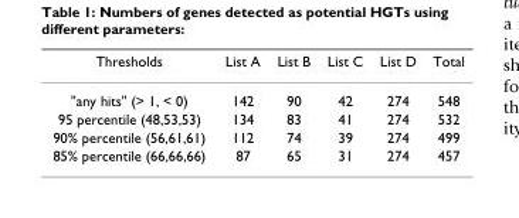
<table><thead><tr><td>Thresholds</td><td>List A</td><td>List B</td><td>List C</td><td>List D</td><td>Total</td></tr></thead><tbody><tr><td>&quot;any hits&quot; (&gt; 1, &lt; 0)</td><td>142</td><td>90</td><td>42</td><td>274</td><td>548</td></tr><tr><td>95 percentile (48,53,53)</td><td>134</td><td>83</td><td>41</td><td>274</td><td>532</td></tr><tr><td>90% percentile (56,61,61)</td><td>112</td><td>74</td><td>39</td><td>274</td><td>499</td></tr><tr><td>85% percentile (66,66,66)</td><td>87</td><td>65</td><td>31</td><td>274</td><td>457</td></tr></tbody></table>